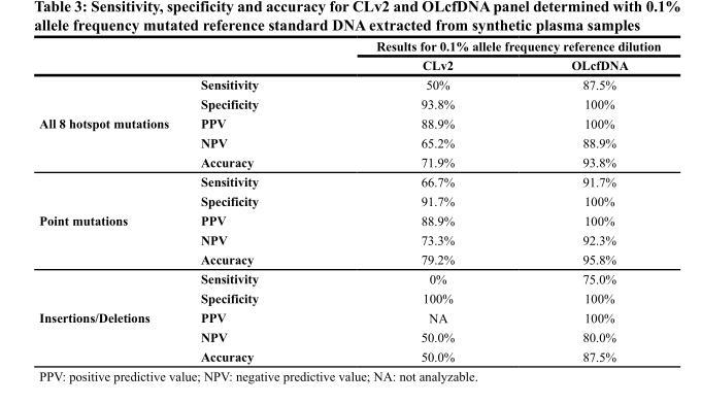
<table><thead><tr><td rowspan="2"></td><td rowspan="2"></td><td colspan="2">Results for 0.1% allele frequency reference dilution</td></tr><tr><td>CLv2</td><td>OLcfDNA</td></tr></thead><tbody><tr><td rowspan="5">All 8 hotspot mutations</td><td>Sensitivity</td><td>50%</td><td>87.5%</td></tr><tr><td>Specificity</td><td>93.8%</td><td>100%</td></tr><tr><td>PPV</td><td>88.9%</td><td>100%</td></tr><tr><td>NPV</td><td>65.2%</td><td>88.9%</td></tr><tr><td>Accuracy</td><td>71.9%</td><td>93.8%</td></tr><tr><td rowspan="5">Point mutations</td><td>Sensitivity</td><td>66.7%</td><td>91.7%</td></tr><tr><td>Specificity</td><td>91.7%</td><td>100%</td></tr><tr><td>PPV</td><td>88.9%</td><td>100%</td></tr><tr><td>NPV</td><td>73.3%</td><td>92.3%</td></tr><tr><td>Accuracy</td><td>79.2%</td><td>95.8%</td></tr><tr><td rowspan="5">Insertions/Deletions</td><td>Sensitivity</td><td>0%</td><td>75.0%</td></tr><tr><td>Specificity</td><td>100%</td><td>100%</td></tr><tr><td>PPV</td><td>NA</td><td>100%</td></tr><tr><td>NPV</td><td>50.0%</td><td>80.0%</td></tr><tr><td>Accuracy</td><td>50.0%</td><td>87.5%</td></tr></tbody></table>